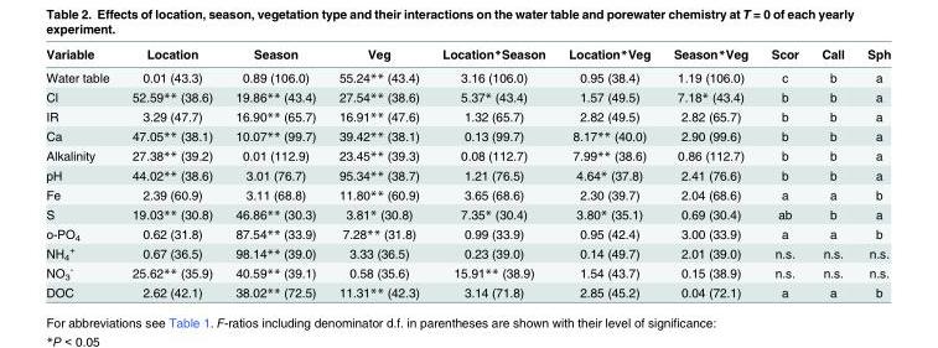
<table><thead><tr><td>Variable</td><td>Location</td><td>Season</td><td>Veg</td><td>Location*Season</td><td>Location*Veg</td><td>Season*Veg</td><td>Scor</td><td>Call</td><td>Sph</td></tr></thead><tbody><tr><td>Water table</td><td>0.01 (43.3)</td><td>0.89 (106.0)</td><td>55.24** (43.4)</td><td>3.16 (106.0)</td><td>0.95 (38.4)</td><td>1.19 (106.0)</td><td>c</td><td>b</td><td>a</td></tr><tr><td>Cl</td><td>52.59** (38.6)</td><td>19.86** (43.4)</td><td>27.54** (38.6)</td><td>5.37* (43.4)</td><td>1.57 (49.5)</td><td>7.18* (43.4)</td><td>b</td><td>b</td><td>a</td></tr><tr><td>IR</td><td>3.29 (47.7)</td><td>16.90** (65.7)</td><td>16.91** (47.6)</td><td>1.32 (65.7)</td><td>2.82 (49.5)</td><td>2.82 (65.7)</td><td>b</td><td>b</td><td>a</td></tr><tr><td>Ca</td><td>47.05** (38.1)</td><td>10.07** (99.7)</td><td>39.42** (38.1)</td><td>0.13 (99.7)</td><td>8.17** (40.0)</td><td>2.90 (99.6)</td><td>b</td><td>b</td><td>a</td></tr><tr><td>Alkalinity</td><td>27.38** (39.2)</td><td>0.01 (112.9)</td><td>23.45** (39.3)</td><td>0.08 (112.7)</td><td>7.99** (38.6)</td><td>0.86 (112.7)</td><td>b</td><td>b</td><td>a</td></tr><tr><td>pH</td><td>44.02** (38.6)</td><td>3.01 (76.7)</td><td>95.34** (38.7)</td><td>1.21 (76.5)</td><td>4.64* (37.8)</td><td>2.41 (76.6)</td><td>b</td><td>b</td><td>a</td></tr><tr><td>Fe</td><td>2.39 (60.9)</td><td>3.11 (68.8)</td><td>11.80** (60.9)</td><td>3.65 (68.6)</td><td>2.30 (39.7)</td><td>2.04 (68.6)</td><td>a</td><td>a</td><td>b</td></tr><tr><td>S</td><td>19.03** (30.8)</td><td>46.86** (30.3)</td><td>3.81* (30.8)</td><td>7.35* (30.4)</td><td>3.80* (35.1)</td><td>0.69 (30.4)</td><td>ab</td><td>b</td><td>a</td></tr><tr><td>o-PO<sub>4</sub></td><td>0.62 (31.8)</td><td>87.54** (33.9)</td><td>7.28** (31.8)</td><td>0.99 (33.9)</td><td>0.95 (42.4)</td><td>3.00 (33.9)</td><td>a</td><td>a</td><td>b</td></tr><tr><td>NH<sub>4</sub> <sup>+</sup></td><td>0.67 (36.5)</td><td>98.14** (39.0)</td><td>3.33 (36.5)</td><td>0.23 (39.0)</td><td>0.14 (49.7)</td><td>2.01 (39.0)</td><td>n.s.</td><td>n.s.</td><td>n.s.</td></tr><tr><td>NO<sub>3</sub> <sup>-</sup></td><td>25.62** (35.9)</td><td>40.59** (39.1)</td><td>0.58 (35.6)</td><td>15.91** (38.9)</td><td>1.54 (43.7)</td><td>0.15 (38.9)</td><td>n.s.</td><td>n.s.</td><td>n.s.</td></tr><tr><td>DOC</td><td>2.62 (42.1)</td><td>38.02** (72.5)</td><td>11.31** (42.3)</td><td>3.14 (71.8)</td><td>2.85 (45.2)</td><td>0.04 (72.1)</td><td>a</td><td>a</td><td>b</td></tr></tbody></table>